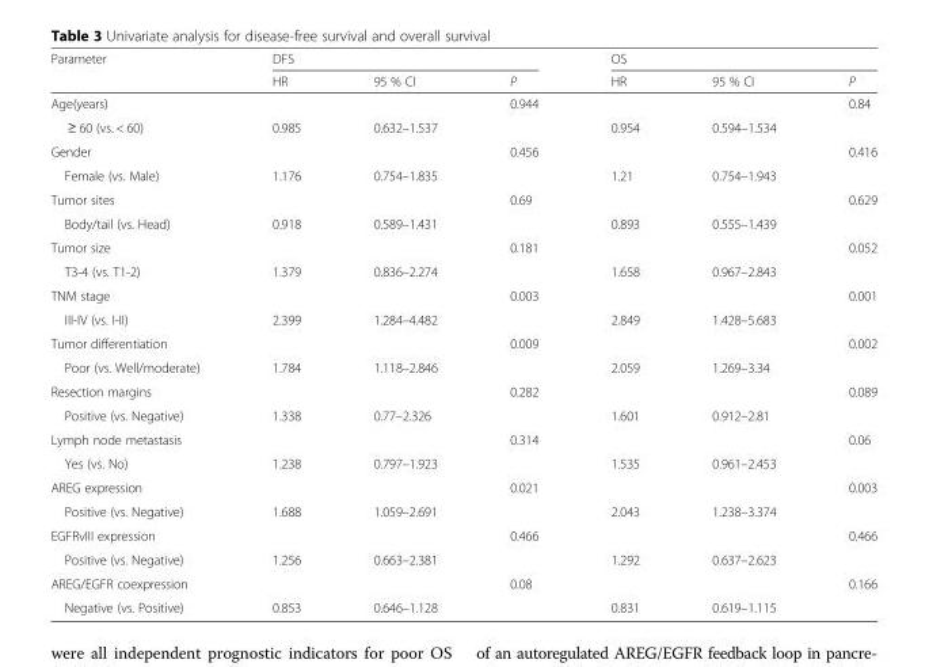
<table><thead><tr><td rowspan="2">Parameter</td><td colspan="3">DFS</td><td colspan="3">OS</td></tr><tr><td>HR</td><td>95 % CI</td><td>P</td><td>HR</td><td>95 % CI</td><td>P</td></tr></thead><tbody><tr><td>Age(years)</td><td></td><td></td><td>0.944</td><td></td><td></td><td>0.84</td></tr><tr><td>≥ 60 (vs. &lt; 60)</td><td>0.985</td><td>0.632–1.537</td><td></td><td>0.954</td><td>0.594–1.534</td><td></td></tr><tr><td>Gender</td><td></td><td></td><td>0.456</td><td></td><td></td><td>0.416</td></tr><tr><td>Female (vs. Male)</td><td>1.176</td><td>0.754–1.835</td><td></td><td>1.21</td><td>0.754–1.943</td><td></td></tr><tr><td>Tumor sites</td><td></td><td></td><td>0.69</td><td></td><td></td><td>0.629</td></tr><tr><td>Body/tail (vs. Head)</td><td>0.918</td><td>0.589–1.431</td><td></td><td>0.893</td><td>0.555–1.439</td><td></td></tr><tr><td>Tumor size</td><td></td><td></td><td>0.181</td><td></td><td></td><td>0.052</td></tr><tr><td>T3-4 (vs. T1-2)</td><td>1.379</td><td>0.836–2.274</td><td></td><td>1.658</td><td>0.967–2.843</td><td></td></tr><tr><td>TNM stage</td><td></td><td></td><td>0.003</td><td></td><td></td><td>0.001</td></tr><tr><td>III-IV (vs. I-II)</td><td>2.399</td><td>1.284–4.482</td><td></td><td>2.849</td><td>1.428–5.683</td><td></td></tr><tr><td>Tumor differentiation</td><td></td><td></td><td>0.009</td><td></td><td></td><td>0.002</td></tr><tr><td>Poor (vs. Well/moderate)</td><td>1.784</td><td>1.118–2.846</td><td></td><td>2.059</td><td>1.269–3.34</td><td></td></tr><tr><td>Resection margins</td><td></td><td></td><td>0.282</td><td></td><td></td><td>0.089</td></tr><tr><td>Positive (vs. Negative)</td><td>1.338</td><td>0.77–2.326</td><td></td><td>1.601</td><td>0.912–2.81</td><td></td></tr><tr><td>Lymph node metastasis</td><td></td><td></td><td>0.314</td><td></td><td></td><td>0.06</td></tr><tr><td>Yes (vs. No)</td><td>1.238</td><td>0.797–1.923</td><td></td><td>1.535</td><td>0.961–2.453</td><td></td></tr><tr><td>AREG expression</td><td></td><td></td><td>0.021</td><td></td><td></td><td>0.003</td></tr><tr><td>Positive (vs. Negative)</td><td>1.688</td><td>1.059–2.691</td><td></td><td>2.043</td><td>1.238–3.374</td><td></td></tr><tr><td>EGFRvIII expression</td><td></td><td></td><td>0.466</td><td></td><td></td><td>0.466</td></tr><tr><td>Positive (vs. Negative)</td><td>1.256</td><td>0.663–2.381</td><td></td><td>1.292</td><td>0.637–2.623</td><td></td></tr><tr><td>AREG/EGFR coexpression</td><td></td><td></td><td>0.08</td><td></td><td></td><td>0.166</td></tr><tr><td>Negative (vs. Positive)</td><td>0.853</td><td>0.646–1.128</td><td></td><td>0.831</td><td>0.619–1.115</td><td></td></tr></tbody></table>